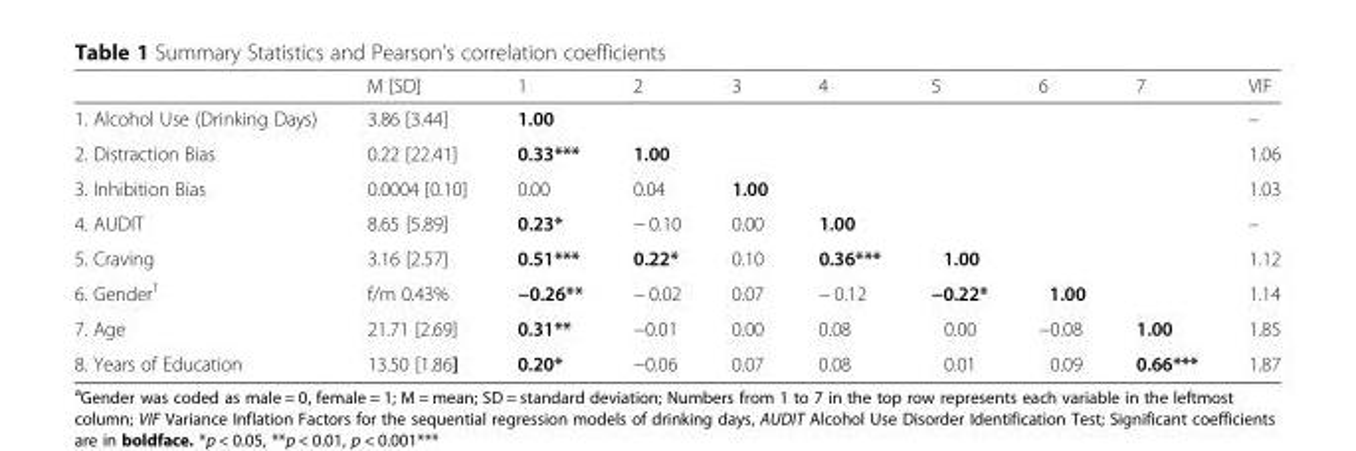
<table><thead><tr><td></td><td>M [SD]</td><td>1</td><td>2</td><td>3</td><td>4</td><td>5</td><td>6</td><td>7</td><td>VIF</td></tr></thead><tbody><tr><td>1. Alcohol Use (Drinking Days)</td><td>3.86 [3.44]</td><td>1.00</td><td></td><td></td><td></td><td></td><td></td><td></td><td>–</td></tr><tr><td>2. Distraction Bias</td><td>0.22 [22.41]</td><td>0.33***</td><td>1.00</td><td></td><td></td><td></td><td></td><td></td><td>1.06</td></tr><tr><td>3. Inhibition Bias</td><td>0.0004 [0.10]</td><td>0.00</td><td>0.04</td><td>1.00</td><td></td><td></td><td></td><td></td><td>1.03</td></tr><tr><td>4. AUDIT</td><td>8.65 [5.89]</td><td>0.23*</td><td>− 0.10</td><td>0.00</td><td>1.00</td><td></td><td></td><td></td><td>–</td></tr><tr><td>5. Craving</td><td>3.16 [2.57]</td><td>0.51***</td><td>0.22*</td><td>0.10</td><td>0.36***</td><td>1.00</td><td></td><td></td><td>1.12</td></tr><tr><td>6. Gender<sup>1</sup></td><td>f/m 0.43%</td><td>−0.26**</td><td>− 0.02</td><td>0.07</td><td>− 0.12</td><td>−0.22*</td><td>1.00</td><td></td><td>1.14</td></tr><tr><td>7. Age</td><td>21.71 [2.69]</td><td>0.31**</td><td>−0.01</td><td>0.00</td><td>0.08</td><td>0.00</td><td>−0.08</td><td>1.00</td><td>1.85</td></tr><tr><td>8. Years of Education</td><td>13.50 [1.86]</td><td>0.20*</td><td>−0.06</td><td>0.07</td><td>0.08</td><td>0.01</td><td>0.09</td><td>0.66***</td><td>1.87</td></tr></tbody></table>